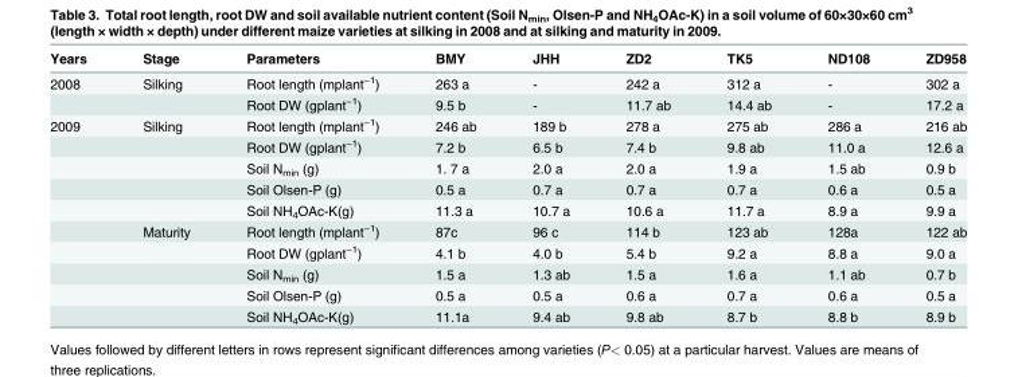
<table><thead><tr><td>Years</td><td>Stage</td><td>Parameters</td><td>BMY</td><td>JHH</td><td>ZD2</td><td>TK5</td><td>ND108</td><td>ZD958</td></tr></thead><tbody><tr><td rowspan="2">2008</td><td>Silking</td><td>Root length (mplant<sup>−1</sup>)</td><td>263 a</td><td>-</td><td>242 a</td><td>312 a</td><td>-</td><td>302 a</td></tr><tr><td></td><td>Root DW (gplant<sup>−1</sup>)</td><td>9.5 b</td><td>-</td><td>11.7 ab</td><td>14.4 ab</td><td>-</td><td>17.2 a</td></tr><tr><td rowspan="10">2009</td><td>Silking</td><td>Root length (mplant<sup>−1</sup>)</td><td>246 ab</td><td>189 b</td><td>278 a</td><td>275 ab</td><td>286 a</td><td>216 ab</td></tr><tr><td></td><td>Root DW (gplant<sup>−1</sup>)</td><td>7.2 b</td><td>6.5 b</td><td>7.4 b</td><td>9.8 ab</td><td>11.0 a</td><td>12.6 a</td></tr><tr><td></td><td>Soil N<sub>min</sub> (g)</td><td>1. 7 a</td><td>2.0 a</td><td>2.0 a</td><td>1.9 a</td><td>1.5 ab</td><td>0.9 b</td></tr><tr><td></td><td>Soil Olsen-P (g)</td><td>0.5 a</td><td>0.7 a</td><td>0.7 a</td><td>0.7 a</td><td>0.6 a</td><td>0.5 a</td></tr><tr><td></td><td>Soil NH<sub>4</sub>OAc-K(g)</td><td>11.3 a</td><td>10.7 a</td><td>10.6 a</td><td>11.7 a</td><td>8.9 a</td><td>9.9 a</td></tr><tr><td>Maturity</td><td>Root length (mplant<sup>−1</sup>)</td><td>87c</td><td>96 c</td><td>114 b</td><td>123 ab</td><td>128a</td><td>122 ab</td></tr><tr><td></td><td>Root DW (gplant<sup>−1</sup>)</td><td>4.1 b</td><td>4.0 b</td><td>5.4 b</td><td>9.2 a</td><td>8.8 a</td><td>9.0 a</td></tr><tr><td></td><td>Soil N<sub>min</sub> (g)</td><td>1.5 a</td><td>1.3 ab</td><td>1.5 a</td><td>1.6 a</td><td>1.1 ab</td><td>0.7 b</td></tr><tr><td></td><td>Soil Olsen-P (g)</td><td>0.5 a</td><td>0.5 a</td><td>0.6 a</td><td>0.7 a</td><td>0.6 a</td><td>0.5 a</td></tr><tr><td></td><td>Soil NH<sub>4</sub>OAc-K(g)</td><td>11.1a</td><td>9.4 ab</td><td>9.8 ab</td><td>8.7 b</td><td>8.8 b</td><td>8.9 b</td></tr></tbody></table>